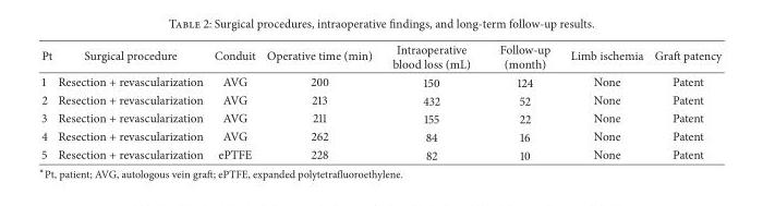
<table><thead><tr><td>Pt</td><td>Surgical procedure</td><td>Conduit</td><td>Operative time (min)</td><td>Intraoperative blood loss (mL)</td><td>Follow-up (month)</td><td>Limb ischemia</td><td>Graft patency</td></tr></thead><tbody><tr><td>1</td><td>Resection + revascularization</td><td>AVG</td><td>200</td><td>150</td><td>124</td><td>None</td><td>Patent</td></tr><tr><td>2</td><td>Resection + revascularization</td><td>AVG</td><td>213</td><td>432</td><td>52</td><td>None</td><td>Patent</td></tr><tr><td>3</td><td>Resection + revascularization</td><td>AVG</td><td>211</td><td>155</td><td>22</td><td>None</td><td>Patent</td></tr><tr><td>4</td><td>Resection + revascularization</td><td>AVG</td><td>262</td><td>84</td><td>16</td><td>None</td><td>Patent</td></tr><tr><td>5</td><td>Resection + revascularization</td><td>ePTFE</td><td>228</td><td>82</td><td>10</td><td>None</td><td>Patent</td></tr></tbody></table>